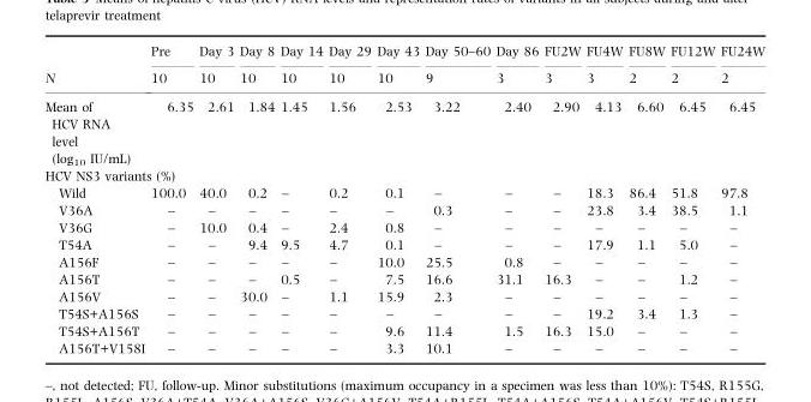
<table><thead><tr><td rowspan="2">N</td><td rowspan="2">Pre 10</td><td rowspan="2">Day 3 10</td><td rowspan="2">Day 8 10</td><td rowspan="2">Day 14 10</td><td rowspan="2">Day 29 10</td><td rowspan="2">Day 43 10</td><td rowspan="2">Day 50–60 9</td><td rowspan="2">Day 86 3</td><td rowspan="2">FU2W 3</td><td rowspan="2">FU4W 3</td><td rowspan="2">FU8W 2</td><td rowspan="2">FU12W 2</td><td rowspan="2">FU24W 2</td></tr><tr></tr></thead><tbody><tr><td>Mean of HCV RNA level (log<sub>10</sub> IU/mL)</td><td>6.35</td><td>2.61</td><td>1.84</td><td>1.45</td><td>1.56</td><td>2.53</td><td>3.22</td><td>2.40</td><td>2.90</td><td>4.13</td><td>6.60</td><td>6.45</td><td>6.45</td></tr><tr><td colspan="14">HCV NS3 variants (%)</td></tr><tr><td>Wild</td><td>100.0</td><td>40.0</td><td>0.2</td><td>–</td><td>0.2</td><td>0.1</td><td>–</td><td>–</td><td>–</td><td>18.3</td><td>86.4</td><td>51.8</td><td>97.8</td></tr><tr><td>V36A</td><td>–</td><td>–</td><td>–</td><td>–</td><td>–</td><td>–</td><td>0.3</td><td>–</td><td>–</td><td>23.8</td><td>3.4</td><td>38.5</td><td>1.1</td></tr><tr><td>V36G</td><td>–</td><td>10.0</td><td>0.4</td><td>–</td><td>2.4</td><td>0.8</td><td>–</td><td>–</td><td>–</td><td>–</td><td>–</td><td>–</td><td>–</td></tr><tr><td>T54A</td><td>–</td><td>–</td><td>9.4</td><td>9.5</td><td>4.7</td><td>0.1</td><td>–</td><td>–</td><td>–</td><td>17.9</td><td>1.1</td><td>5.0</td><td>–</td></tr><tr><td>A156F</td><td>–</td><td>–</td><td>–</td><td>–</td><td>–</td><td>10.0</td><td>25.5</td><td>0.8</td><td>–</td><td>–</td><td>–</td><td>–</td><td>–</td></tr><tr><td>A156T</td><td>–</td><td>–</td><td>–</td><td>0.5</td><td>–</td><td>7.5</td><td>16.6</td><td>31.1</td><td>16.3</td><td>–</td><td>–</td><td>1.2</td><td>–</td></tr><tr><td>A156V</td><td>–</td><td>–</td><td>30.0</td><td>–</td><td>1.1</td><td>15.9</td><td>2.3</td><td>–</td><td>–</td><td>–</td><td>–</td><td>–</td><td>–</td></tr><tr><td>T54S+A156S</td><td>–</td><td>–</td><td>–</td><td>–</td><td>–</td><td>–</td><td>–</td><td>–</td><td>–</td><td>19.2</td><td>3.4</td><td>1.3</td><td>–</td></tr><tr><td>T54S+A156T</td><td>–</td><td>–</td><td>–</td><td>–</td><td>–</td><td>9.6</td><td>11.4</td><td>1.5</td><td>16.3</td><td>15.0</td><td>–</td><td>–</td><td>–</td></tr><tr><td>A156T+V158I</td><td>–</td><td>–</td><td>–</td><td>–</td><td>–</td><td>3.3</td><td>10.1</td><td>–</td><td>–</td><td>–</td><td>–</td><td>–</td><td>–</td></tr></tbody></table>